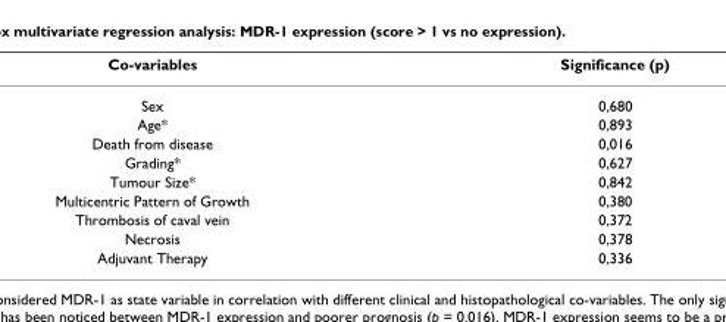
<table><thead><tr><td>Co-variables</td><td>Significance (p)</td></tr></thead><tbody><tr><td>Sex</td><td>0,680</td></tr><tr><td>Age*</td><td>0,893</td></tr><tr><td>Death from disease</td><td>0,016</td></tr><tr><td>Grading*</td><td>0,627</td></tr><tr><td>Tumour Size*</td><td>0,842</td></tr><tr><td>Multicentric Pattern of Growth</td><td>0,380</td></tr><tr><td>Thrombosis of caval vein</td><td>0,372</td></tr><tr><td>Necrosis</td><td>0,378</td></tr><tr><td>Adjuvant Therapy</td><td>0,336</td></tr></tbody></table>